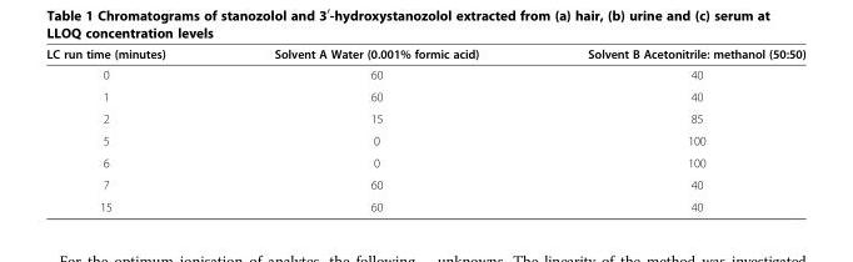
<table><thead><tr><td>LC run time (minutes)</td><td>Solvent A Water (0.001% formic acid)</td><td>Solvent B Acetonitrile: methanol (50:50)</td></tr></thead><tbody><tr><td>0</td><td>60</td><td>40</td></tr><tr><td>1</td><td>60</td><td>40</td></tr><tr><td>2</td><td>15</td><td>85</td></tr><tr><td>5</td><td>0</td><td>100</td></tr><tr><td>6</td><td>0</td><td>100</td></tr><tr><td>7</td><td>60</td><td>40</td></tr><tr><td>15</td><td>60</td><td>40</td></tr></tbody></table>